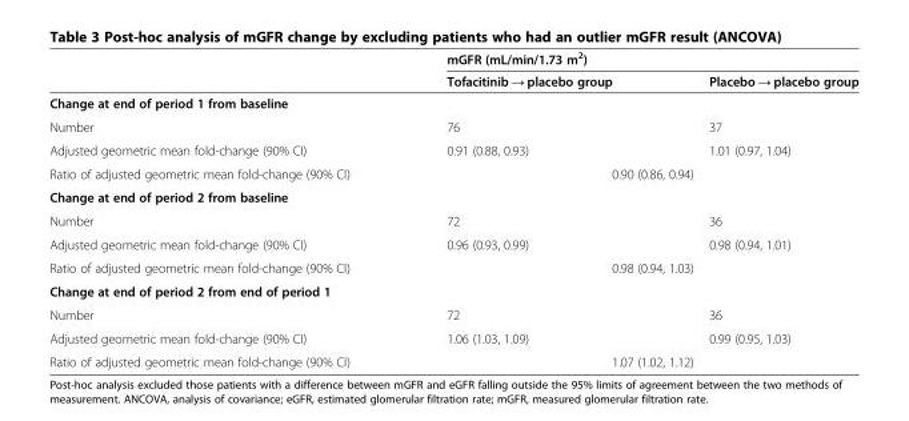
<table><thead><tr><td rowspan="2"></td><td colspan="2">mGFR (mL/min/1.73 m<sup>2</sup>)</td></tr><tr><td>Tofacitinib → placebo group</td><td>Placebo → placebo group</td></tr></thead><tbody><tr><td colspan="3">Change at end of period 1 from baseline</td></tr><tr><td>Number</td><td>76</td><td>37</td></tr><tr><td>Adjusted geometric mean fold-change (90% CI)</td><td>0.91 (0.88, 0.93)</td><td>1.01 (0.97, 1.04)</td></tr><tr><td>Ratio of adjusted geometric mean fold-change (90% CI)</td><td colspan="2">0.90 (0.86, 0.94)</td></tr><tr><td colspan="3">Change at end of period 2 from baseline</td></tr><tr><td>Number</td><td>72</td><td>36</td></tr><tr><td>Adjusted geometric mean fold-change (90% CI)</td><td>0.96 (0.93, 0.99)</td><td>0.98 (0.94, 1.01)</td></tr><tr><td>Ratio of adjusted geometric mean fold-change (90% CI)</td><td colspan="2">0.98 (0.94, 1.03)</td></tr><tr><td colspan="3">Change at end of period 2 from end of period 1</td></tr><tr><td>Number</td><td>72</td><td>36</td></tr><tr><td>Adjusted geometric mean fold-change (90% CI)</td><td>1.06 (1.03, 1.09)</td><td>0.99 (0.95, 1.03)</td></tr><tr><td>Ratio of adjusted geometric mean fold-change (90% CI)</td><td colspan="2">1.07 (1.02, 1.12)</td></tr></tbody></table>